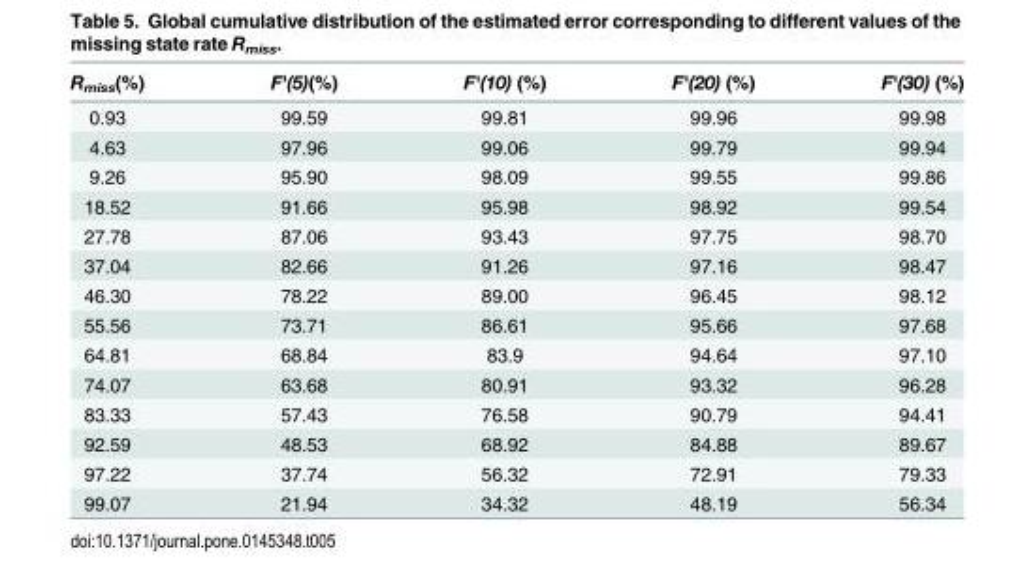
<table><thead><tr><td>R<sub>miss</sub>(%)</td><td>F&#x27;(5)(%)</td><td>F&#x27;(10) (%)</td><td>F&#x27;(20) (%)</td><td>F&#x27;(30) (%)</td></tr></thead><tbody><tr><td>0.93</td><td>99.59</td><td>99.81</td><td>99.96</td><td>99.98</td></tr><tr><td>4.63</td><td>97.96</td><td>99.06</td><td>99.79</td><td>99.94</td></tr><tr><td>9.26</td><td>95.90</td><td>98.09</td><td>99.55</td><td>99.86</td></tr><tr><td>18.52</td><td>91.66</td><td>95.98</td><td>98.92</td><td>99.54</td></tr><tr><td>27.78</td><td>87.06</td><td>93.43</td><td>97.75</td><td>98.70</td></tr><tr><td>37.04</td><td>82.66</td><td>91.26</td><td>97.16</td><td>98.47</td></tr><tr><td>46.30</td><td>78.22</td><td>89.00</td><td>96.45</td><td>98.12</td></tr><tr><td>55.56</td><td>73.71</td><td>86.61</td><td>95.66</td><td>97.68</td></tr><tr><td>64.81</td><td>68.84</td><td>83.9</td><td>94.64</td><td>97.10</td></tr><tr><td>74.07</td><td>63.68</td><td>80.91</td><td>93.32</td><td>96.28</td></tr><tr><td>83.33</td><td>57.43</td><td>76.58</td><td>90.79</td><td>94.41</td></tr><tr><td>92.59</td><td>48.53</td><td>68.92</td><td>84.88</td><td>89.67</td></tr><tr><td>97.22</td><td>37.74</td><td>56.32</td><td>72.91</td><td>79.33</td></tr><tr><td>99.07</td><td>21.94</td><td>34.32</td><td>48.19</td><td>56.34</td></tr></tbody></table>